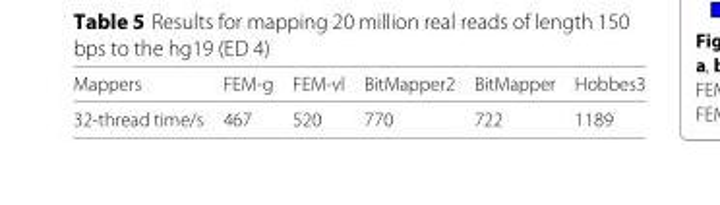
<table><thead><tr><td>Mappers</td><td>FEM-g</td><td>FEM-vl</td><td>BitMapper2</td><td>BitMapper</td><td>Hobbes3</td></tr></thead><tbody><tr><td>32-thread time/s</td><td>467</td><td>520</td><td>770</td><td>722</td><td>1189</td></tr></tbody></table>